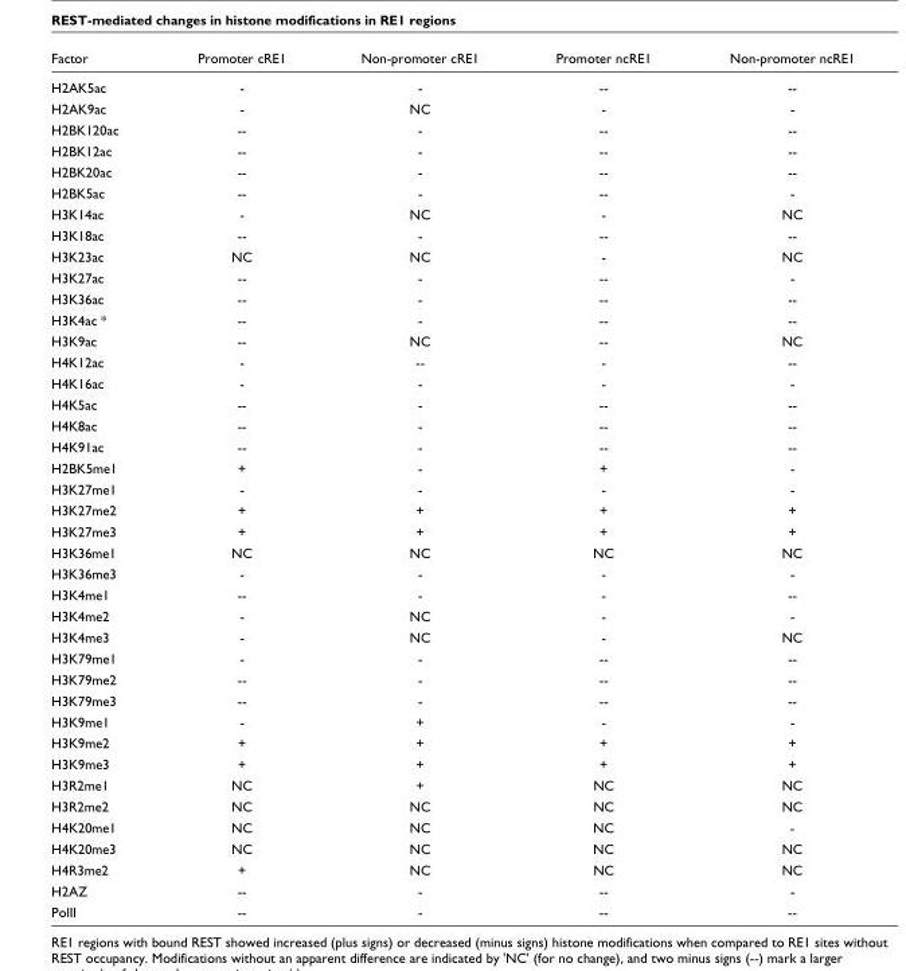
<table><thead><tr><td>Factor</td><td>Promoter cRE1</td><td>Non-promoter cRE1</td><td>Promoter ncRE1</td><td>Non-promoter ncRE1</td></tr></thead><tbody><tr><td>H2AK5ac</td><td>-</td><td>-</td><td>--</td><td>--</td></tr><tr><td>H2AK9ac</td><td>-</td><td>NC</td><td>-</td><td>-</td></tr><tr><td>H2BK120ac</td><td>--</td><td>-</td><td>--</td><td>--</td></tr><tr><td>H2BK12ac</td><td>--</td><td>-</td><td>--</td><td>--</td></tr><tr><td>H2BK20ac</td><td>--</td><td>-</td><td>--</td><td>--</td></tr><tr><td>H2BK5ac</td><td>--</td><td>-</td><td>--</td><td>-</td></tr><tr><td>H3K14ac</td><td>-</td><td>NC</td><td>-</td><td>NC</td></tr><tr><td>H3K18ac</td><td>--</td><td>-</td><td>--</td><td>--</td></tr><tr><td>H3K23ac</td><td>NC</td><td>NC</td><td>-</td><td>NC</td></tr><tr><td>H3K27ac</td><td>--</td><td>-</td><td>--</td><td>-</td></tr><tr><td>H3K36ac</td><td>--</td><td>-</td><td>--</td><td>--</td></tr><tr><td>H3K4ac *</td><td>--</td><td>-</td><td>--</td><td>--</td></tr><tr><td>H3K9ac</td><td>--</td><td>NC</td><td>--</td><td>NC</td></tr><tr><td>H4K12ac</td><td>-</td><td>--</td><td>-</td><td>--</td></tr><tr><td>H4K16ac</td><td>-</td><td>-</td><td>-</td><td>-</td></tr><tr><td>H4K5ac</td><td>--</td><td>-</td><td>--</td><td>--</td></tr><tr><td>H4K8ac</td><td>--</td><td>-</td><td>--</td><td>--</td></tr><tr><td>H4K91ac</td><td>--</td><td>-</td><td>--</td><td>--</td></tr><tr><td>H2BK5me1</td><td>+</td><td>-</td><td>+</td><td>-</td></tr><tr><td>H3K27me1</td><td>-</td><td>-</td><td>-</td><td>-</td></tr><tr><td>H3K27me2</td><td>+</td><td>+</td><td>+</td><td>+</td></tr><tr><td>H3K27me3</td><td>+</td><td>+</td><td>+</td><td>+</td></tr><tr><td>H3K36me1</td><td>NC</td><td>NC</td><td>NC</td><td>NC</td></tr><tr><td>H3K36me3</td><td>-</td><td>-</td><td>-</td><td>-</td></tr><tr><td>H3K4me1</td><td>--</td><td>-</td><td>-</td><td>--</td></tr><tr><td>H3K4me2</td><td>-</td><td>NC</td><td>-</td><td>-</td></tr><tr><td>H3K4me3</td><td>-</td><td>NC</td><td>-</td><td>NC</td></tr><tr><td>H3K79me1</td><td>-</td><td>-</td><td>--</td><td>--</td></tr><tr><td>H3K79me2</td><td>--</td><td>-</td><td>--</td><td>--</td></tr><tr><td>H3K79me3</td><td>--</td><td>-</td><td>--</td><td>--</td></tr><tr><td>H3K9me1</td><td>-</td><td>+</td><td>-</td><td>-</td></tr><tr><td>H3K9me2</td><td>+</td><td>+</td><td>+</td><td>+</td></tr><tr><td>H3K9me3</td><td>+</td><td>+</td><td>+</td><td>+</td></tr><tr><td>H3R2me1</td><td>NC</td><td>+</td><td>NC</td><td>NC</td></tr><tr><td>H3R2me2</td><td>NC</td><td>NC</td><td>NC</td><td>NC</td></tr><tr><td>H4K20me1</td><td>NC</td><td>NC</td><td>NC</td><td>-</td></tr><tr><td>H4K20me3</td><td>NC</td><td>NC</td><td>NC</td><td>NC</td></tr><tr><td>H4R3me2</td><td>+</td><td>NC</td><td>NC</td><td>NC</td></tr><tr><td>H2AZ</td><td>--</td><td>-</td><td>--</td><td>-</td></tr><tr><td>PolII</td><td>--</td><td>-</td><td>--</td><td>--</td></tr></tbody></table>